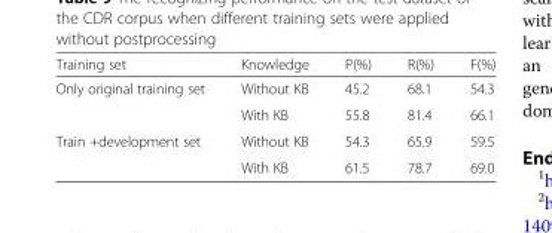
<table><thead><tr><td>Training set</td><td>Knowledge</td><td>P(%)</td><td>R(%)</td><td>F(%)</td></tr></thead><tbody><tr><td rowspan="2">Only original training set</td><td>Without KB</td><td>45.2</td><td>68.1</td><td>54.3</td></tr><tr><td>With KB</td><td>55.8</td><td>81.4</td><td>66.1</td></tr><tr><td rowspan="2">Train +development set</td><td>Without KB</td><td>54.3</td><td>65.9</td><td>59.5</td></tr><tr><td>With KB</td><td>61.5</td><td>78.7</td><td>69.0</td></tr></tbody></table>